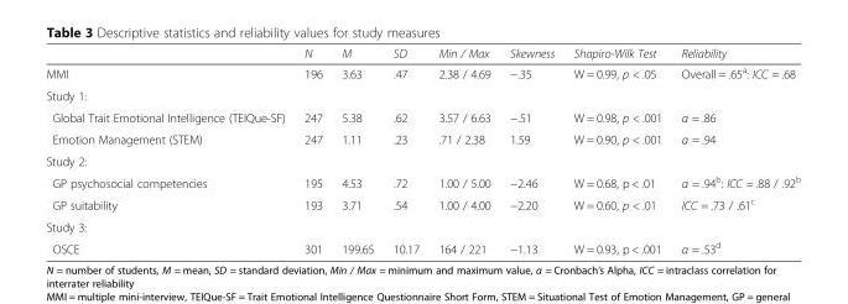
<table><thead><tr><td></td><td>N</td><td>M</td><td>SD</td><td>Min / Max</td><td>Skewness</td><td>Shapiro-Wilk Test</td><td>Reliability</td></tr></thead><tbody><tr><td>MMI</td><td>196</td><td>3.63</td><td>.47</td><td>2.38 / 4.69</td><td>−.35</td><td>W = 0.99, p &lt; .05</td><td>Overall = .65<sup>a</sup>: ICC = .68</td></tr><tr><td colspan="8">Study 1:</td></tr><tr><td>Global Trait Emotional Intelligence (TEIQue-SF)</td><td>247</td><td>5.38</td><td>.62</td><td>3.57 / 6.63</td><td>−.51</td><td>W = 0.98, p &lt; .001</td><td>α = .86</td></tr><tr><td>Emotion Management (STEM)</td><td>247</td><td>1.11</td><td>.23</td><td>.71 / 2.38</td><td>1.59</td><td>W = 0.90, p &lt; .001</td><td>α = .94</td></tr><tr><td colspan="8">Study 2:</td></tr><tr><td>GP psychosocial competencies</td><td>195</td><td>4.53</td><td>.72</td><td>1.00 / 5.00</td><td>−2.46</td><td>W = 0.68, p &lt; .01</td><td>α = .94<sup>b</sup>: ICC = .88 / .92<sup>b</sup></td></tr><tr><td>GP suitability</td><td>193</td><td>3.71</td><td>.54</td><td>1.00 / 4.00</td><td>−2.20</td><td>W = 0.60, p &lt; .01</td><td>ICC = .73 / .61<sup>c</sup></td></tr><tr><td colspan="8">Study 3:</td></tr><tr><td>OSCE</td><td>301</td><td>199.65</td><td>10.17</td><td>164 / 221</td><td>−1.13</td><td>W = 0.93, p &lt; .001</td><td>α = .53<sup>d</sup></td></tr></tbody></table>